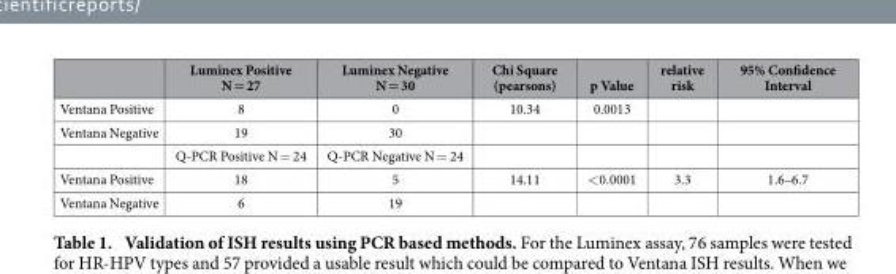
<table><thead><tr><td></td><td>Luminex Positive N = 27</td><td>Luminex Negative N = 30</td><td>Chi Square (pearsons)</td><td>p Value</td><td>relative risk</td><td>95% Confidence Interval</td></tr></thead><tbody><tr><td>Ventana Positive</td><td>8</td><td>0</td><td>10.34</td><td>0.0013</td><td></td><td></td></tr><tr><td rowspan="2">Ventana Negative</td><td>19</td><td>30</td><td></td><td></td><td></td><td></td></tr><tr><td>Q-PCR Positive N = 24</td><td>Q-PCR Negative N = 24</td><td></td><td></td><td></td><td></td></tr><tr><td>Ventana Positive</td><td>18</td><td>5</td><td>14.11</td><td>&lt; 0.0001</td><td>3.3</td><td>1.6–6.7</td></tr><tr><td>Ventana Negative</td><td>6</td><td>19</td><td></td><td></td><td></td><td></td></tr></tbody></table>